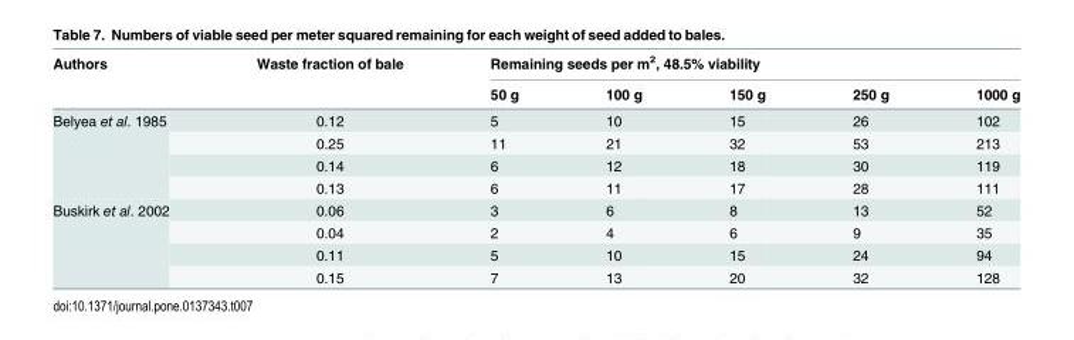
<table><thead><tr><td rowspan="2">Authors</td><td rowspan="2">Waste fraction of bale</td><td colspan="5">Remaining seeds per m<sup>2</sup>, 48.5% viability</td></tr><tr><td>50 g</td><td>100 g</td><td>150 g</td><td>250 g</td><td>1000 g</td></tr></thead><tbody><tr><td rowspan="4">Belyea et al. 1985</td><td>0.12</td><td>5</td><td>10</td><td>15</td><td>26</td><td>102</td></tr><tr><td>0.25</td><td>11</td><td>21</td><td>32</td><td>53</td><td>213</td></tr><tr><td>0.14</td><td>6</td><td>12</td><td>18</td><td>30</td><td>119</td></tr><tr><td>0.13</td><td>6</td><td>11</td><td>17</td><td>28</td><td>111</td></tr><tr><td rowspan="4">Buskirk et al. 2002</td><td>0.06</td><td>3</td><td>6</td><td>8</td><td>13</td><td>52</td></tr><tr><td>0.04</td><td>2</td><td>4</td><td>6</td><td>9</td><td>35</td></tr><tr><td>0.11</td><td>5</td><td>10</td><td>15</td><td>24</td><td>94</td></tr><tr><td>0.15</td><td>7</td><td>13</td><td>20</td><td>32</td><td>128</td></tr></tbody></table>